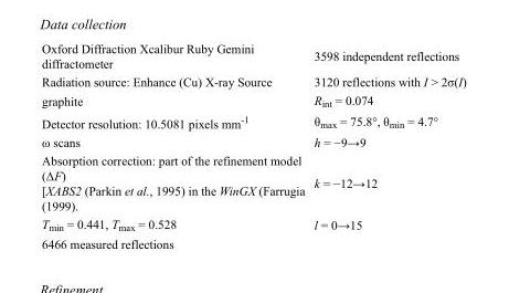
<table><tbody><tr><td>Oxford Diffraction Xcalibur Ruby Gemini diffractometer</td><td>3598 independent reflections</td></tr><tr><td>Radiation source: Enhance (Cu) X-ray Source</td><td>3120 reflections with I &gt; 2σ(I)</td></tr><tr><td>graphite</td><td>R<sub>int</sub> = 0.074</td></tr><tr><td>Detector resolution: 10.5081 pixels mm<sup>-1</sup></td><td>θ<sub>max</sub> = 75.8°, θ<sub>min</sub> = 4.7°</td></tr><tr><td>ω scans</td><td>h = −9→9</td></tr><tr><td>Absorption correction: part of the refinement model (ΔF) [XABS2 (Parkin et al., 1995) in the WinGX (Farrugia (1999).</td><td>k = −12→12</td></tr><tr><td>T<sub>min</sub> = 0.441, T<sub>max</sub> = 0.528</td><td>l = 0→15</td></tr><tr><td>6466 measured reflections</td><td></td></tr></tbody></table>